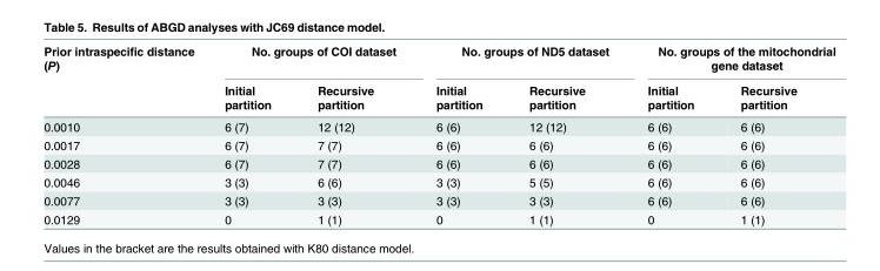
<table><thead><tr><td rowspan="2">Prior intraspecific distance (P)</td><td colspan="2">No. groups of COI dataset</td><td colspan="2">No. groups of ND5 dataset</td><td colspan="2">No. groups of the mitochondrial gene dataset</td></tr><tr><td>Initial partition</td><td>Recursive partition</td><td>Initial partition</td><td>Recursive partition</td><td>Initial partition</td><td>Recursive partition</td></tr></thead><tbody><tr><td>0.0010</td><td>6 (7)</td><td>12 (12)</td><td>6 (6)</td><td>12 (12)</td><td>6 (6)</td><td>6 (6)</td></tr><tr><td>0.0017</td><td>6 (7)</td><td>7 (7)</td><td>6 (6)</td><td>6 (6)</td><td>6 (6)</td><td>6 (6)</td></tr><tr><td>0.0028</td><td>6 (7)</td><td>7 (7)</td><td>6 (6)</td><td>6 (6)</td><td>6 (6)</td><td>6 (6)</td></tr><tr><td>0.0046</td><td>3 (3)</td><td>6 (6)</td><td>3 (3)</td><td>5 (5)</td><td>6 (6)</td><td>6 (6)</td></tr><tr><td>0.0077</td><td>3 (3)</td><td>3 (3)</td><td>3 (3)</td><td>3 (3)</td><td>6 (6)</td><td>6 (6)</td></tr><tr><td>0.0129</td><td>0</td><td>1 (1)</td><td>0</td><td>1 (1)</td><td>0</td><td>1 (1)</td></tr></tbody></table>